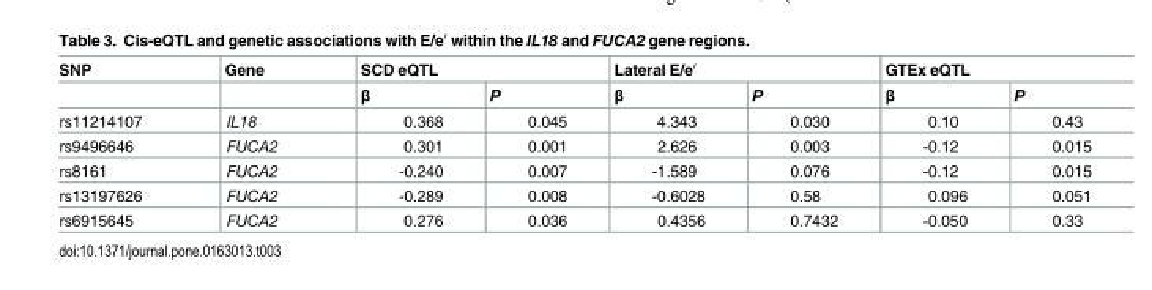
<table><thead><tr><td rowspan="2">SNP</td><td rowspan="2">Gene</td><td colspan="2">SCD eQTL</td><td colspan="2">Lateral E/e′</td><td colspan="2">GTEx eQTL</td></tr><tr><td>β</td><td>P</td><td>β</td><td>P</td><td>β</td><td>P</td></tr></thead><tbody><tr><td>rs11214107</td><td>IL18</td><td>0.368</td><td>0.045</td><td>4.343</td><td>0.030</td><td>0.10</td><td>0.43</td></tr><tr><td>rs9496646</td><td>FUCA2</td><td>0.301</td><td>0.001</td><td>2.626</td><td>0.003</td><td>-0.12</td><td>0.015</td></tr><tr><td>rs8161</td><td>FUCA2</td><td>-0.240</td><td>0.007</td><td>-1.589</td><td>0.076</td><td>-0.12</td><td>0.015</td></tr><tr><td>rs13197626</td><td>FUCA2</td><td>-0.289</td><td>0.008</td><td>-0.6028</td><td>0.58</td><td>0.096</td><td>0.051</td></tr><tr><td>rs6915645</td><td>FUCA2</td><td>0.276</td><td>0.036</td><td>0.4356</td><td>0.7432</td><td>-0.050</td><td>0.33</td></tr></tbody></table>